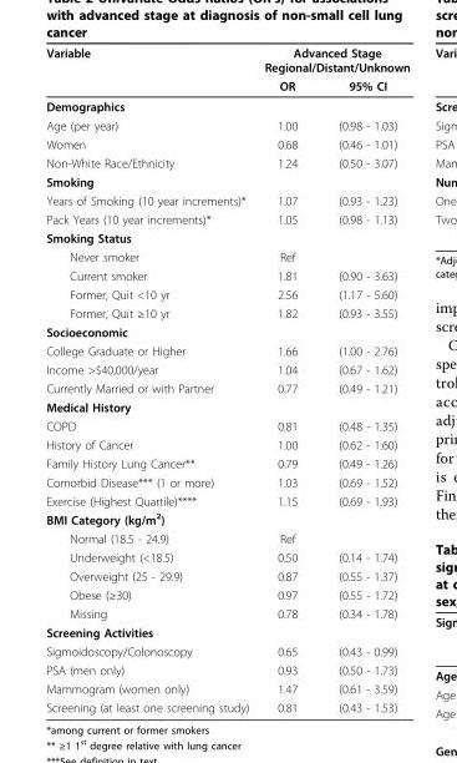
<table><thead><tr><td rowspan="2">Variable</td><td colspan="2">Advanced Stage Regional/Distant/Unknown</td></tr><tr><td>OR</td><td>95% CI</td></tr></thead><tbody><tr><td colspan="3">Demographics</td></tr><tr><td>Age (per year)</td><td>1.00</td><td>(0.98 - 1.03)</td></tr><tr><td>Women</td><td>0.68</td><td>(0.46 - 1.01)</td></tr><tr><td>Non-White Race/Ethnicity</td><td>1.24</td><td>(0.50 - 3.07)</td></tr><tr><td colspan="3">Smoking</td></tr><tr><td>Years of Smoking (10 year increments)*</td><td>1.07</td><td>(0.93 - 1.23)</td></tr><tr><td>Pack Years (10 year increments)*</td><td>1.05</td><td>(0.98 - 1.13)</td></tr><tr><td colspan="3">Smoking Status</td></tr><tr><td>Never smoker</td><td>Ref</td><td></td></tr><tr><td>Current smoker</td><td>1.81</td><td>(0.90 - 3.63)</td></tr><tr><td>Former, Quit &lt;10 yr</td><td>2.56</td><td>(1.17 - 5.60)</td></tr><tr><td>Former, Quit ≥10 yr</td><td>1.82</td><td>(0.93 - 3.55)</td></tr><tr><td colspan="3">Socioeconomic</td></tr><tr><td>College Graduate or Higher</td><td>1.66</td><td>(1.00 - 2.76)</td></tr><tr><td>Income &gt;$40,000/year</td><td>1.04</td><td>(0.67 - 1.62)</td></tr><tr><td>Currently Married or with Partner</td><td>0.77</td><td>(0.49 - 1.21)</td></tr><tr><td colspan="3">Medical History</td></tr><tr><td>COPD</td><td>0.81</td><td>(0.48 - 1.35)</td></tr><tr><td>History of Cancer</td><td>1.00</td><td>(0.62 - 1.60)</td></tr><tr><td>Family History Lung Cancer**</td><td>0.79</td><td>(0.49 - 1.26)</td></tr><tr><td>Comorbid Disease*** (1 or more)</td><td>1.03</td><td>(0.69 - 1.52)</td></tr><tr><td>Exercise (Highest Quartile)****</td><td>1.15</td><td>(0.69 - 1.93)</td></tr><tr><td colspan="3">BMI Category (kg/m<sup>2</sup>)</td></tr><tr><td>Normal (18.5 - 24.9)</td><td>Ref</td><td></td></tr><tr><td>Underweight (&lt;18.5)</td><td>0.50</td><td>(0.14 - 1.74)</td></tr><tr><td>Overweight (25 - 29.9)</td><td>0.87</td><td>(0.55 - 1.37)</td></tr><tr><td>Obese (≥30)</td><td>0.97</td><td>(0.55 - 1.72)</td></tr><tr><td>Missing</td><td>0.78</td><td>(0.34 - 1.78)</td></tr><tr><td colspan="3">Screening Activities</td></tr><tr><td>Sigmoidoscopy/Colonoscopy</td><td>0.65</td><td>(0.43 - 0.99)</td></tr><tr><td>PSA (men only)</td><td>0.93</td><td>(0.50 - 1.73)</td></tr><tr><td>Mammogram (women only)</td><td>1.47</td><td>(0.61 - 3.59)</td></tr><tr><td>Screening (at least one screening study)</td><td>0.81</td><td>(0.43 - 1.53)</td></tr></tbody></table>